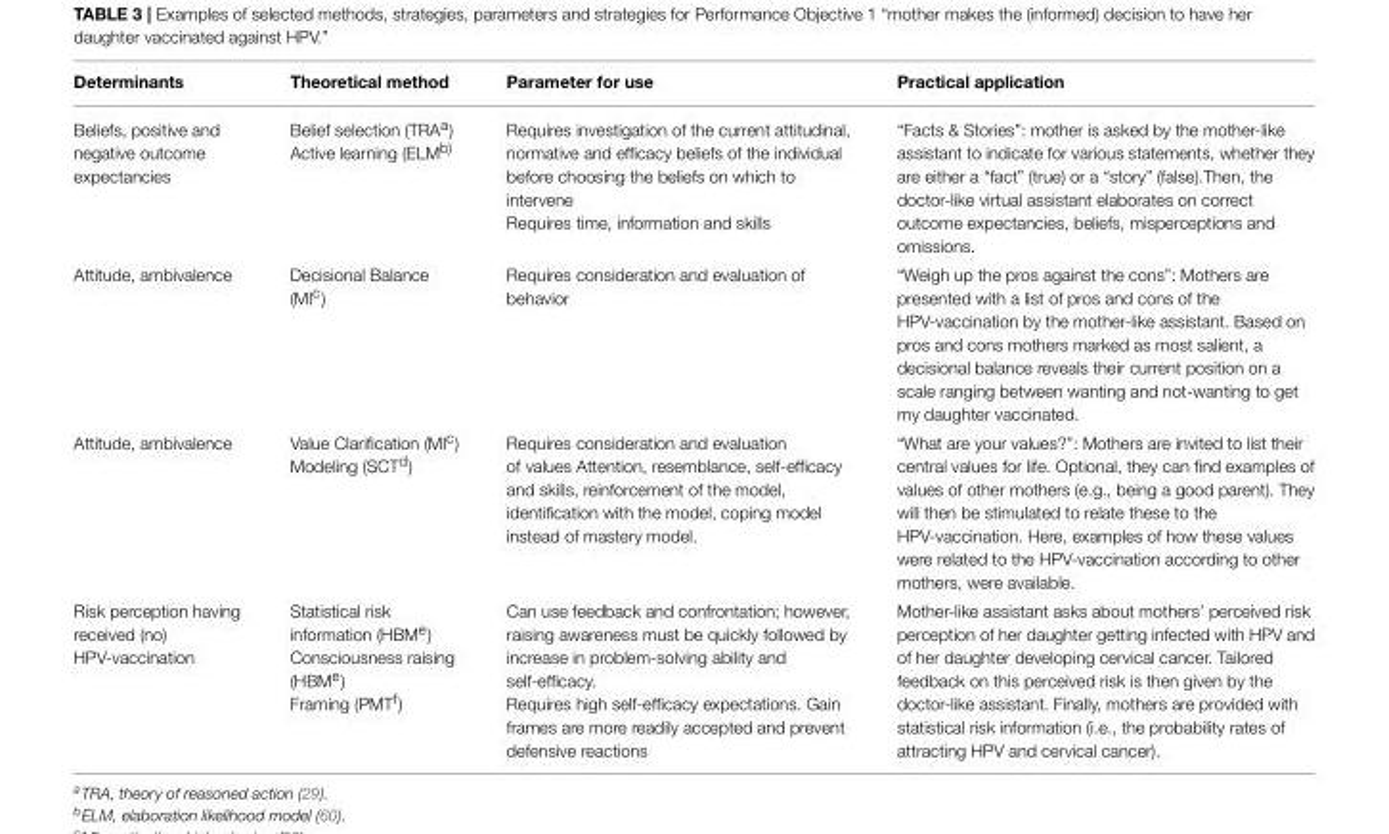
<table><thead><tr><td>Determinants</td><td>Theoretical method</td><td>Parameter for use</td><td>Practical application</td></tr></thead><tbody><tr><td>Beliefs, positive and negative outcome expectancies</td><td>Belief selection (TRA<sup>a</sup>) Active learning (ELM<sup>b)</sup></td><td>Requires investigation of the current attitudinal, normative and efficacy beliefs of the individual before choosing the beliefs on which to intervene Requires time, information and skills</td><td>“Facts &amp; Stories”: mother is asked by the mother-like assistant to indicate for various statements, whether they are either a “fact” (true) or a “story” (false).Then, the doctor-like virtual assistant elaborates on correct outcome expectancies, beliefs, misperceptions and omissions.</td></tr><tr><td>Attitude, ambivalence</td><td>Decisional Balance (MI<sup>c</sup>)</td><td>Requires consideration and evaluation of behavior</td><td>“Weigh up the pros against the cons”: Mothers are presented with a list of pros and cons of the HPV-vaccination by the mother-like assistant. Based on pros and cons mothers marked as most salient, a decisional balance reveals their current position on a scale ranging between wanting and not-wanting to get my daughter vaccinated.</td></tr><tr><td>Attitude, ambivalence</td><td>Value Clarification (MI<sup>c</sup>) Modeling (SCT<sup>d</sup>)</td><td>Requires consideration and evaluation of values Attention, resemblance, self-efficacy and skills, reinforcement of the model, identification with the model, coping model instead of mastery model.</td><td>“What are your values?”: Mothers are invited to list their central values for life. Optional, they can find examples of values of other mothers (e.g., being a good parent). They will then be stimulated to relate these to the HPV-vaccination. Here, examples of how these values were related to the HPV-vaccination according to other mothers, were available.</td></tr><tr><td>Risk perception having received (no) HPV-vaccination</td><td>Statistical risk information (HBM<sup>e</sup>) Consciousness raising (HBM<sup>e</sup>) Framing (PMT<sup>f</sup>)</td><td>Can use feedback and confrontation; however, raising awareness must be quickly followed by increase in problem-solving ability and self-efficacy. Requires high self-efficacy expectations. Gain frames are more readily accepted and prevent defensive reactions</td><td>Mother-like assistant asks about mothers’ perceived risk perception of her daughter getting infected with HPV and of her daughter developing cervical cancer. Tailored feedback on this perceived risk is then given by the doctor-like assistant. Finally, mothers are provided with statistical risk information (i.e., the probability rates of attracting HPV and cervical cancer).</td></tr></tbody></table>